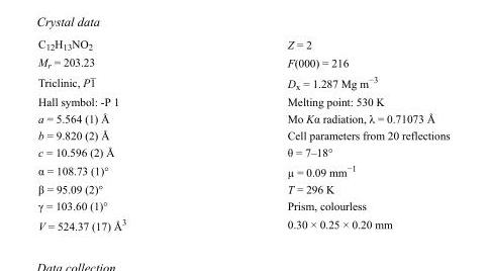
<table><tbody><tr><td>C<sub>12</sub>H<sub>13</sub>NO<sub>2</sub></td><td>Z = 2</td></tr><tr><td>M<sub>r</sub> = 203.23</td><td>F(000) = 216</td></tr><tr><td>Triclinic, P1</td><td>D<sub>x</sub> = 1.287 Mg m<sup>−3</sup></td></tr><tr><td>Hall symbol: -P 1</td><td>Melting point: 530 K</td></tr><tr><td>a = 5.564 (1) Å</td><td>Mo Kα radiation, λ = 0.71073 Å</td></tr><tr><td>b = 9.820 (2) Å</td><td>Cell parameters from 20 reflections</td></tr><tr><td>c = 10.596 (2) Å</td><td>θ = 7–18°</td></tr><tr><td>α = 108.73 (1)°</td><td>µ = 0.09 mm<sup>−1</sup></td></tr><tr><td>β = 95.09 (2)°</td><td>T = 296 K</td></tr><tr><td>γ = 103.60 (1)°</td><td>Prism, colourless</td></tr><tr><td>V = 524.37 (17) Å<sup>3</sup></td><td>0.30 × 0.25 × 0.20 mm</td></tr></tbody></table>